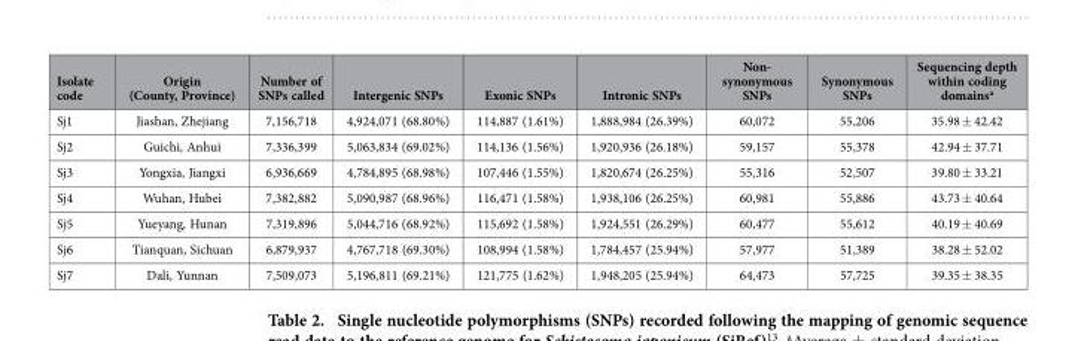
<table><thead><tr><td>Isolate code</td><td>Origin (County, Province)</td><td>Number of SNPs called</td><td>Intergenic SNPs</td><td>Exonic SNPs</td><td>Intronic SNPs</td><td>Non- synonymous SNPs</td><td>Synonymous SNPs</td><td>Sequencing depth within coding domains<sup>a</sup></td></tr></thead><tbody><tr><td>Sj1</td><td>Jiashan, Zhejiang</td><td>7,156,718</td><td>4,924,071 (68.80%)</td><td>114,887 (1.61%)</td><td>1,888,984 (26.39%)</td><td>60,072</td><td>55,206</td><td>35.98 ± 42.42</td></tr><tr><td>Sj2</td><td>Guichi, Anhui</td><td>7,336,399</td><td>5,063,834 (69.02%)</td><td>114,136 (1.56%)</td><td>1,920,936 (26.18%)</td><td>59,157</td><td>55,378</td><td>42.94 ± 37.71</td></tr><tr><td>Sj3</td><td>Yongxia, Jiangxi</td><td>6,936,669</td><td>4,784,895 (68.98%)</td><td>107,446 (1.55%)</td><td>1,820,674 (26.25%)</td><td>55,316</td><td>52,507</td><td>39.80 ± 33.21</td></tr><tr><td>Sj4</td><td>Wuhan, Hubei</td><td>7,382,882</td><td>5,090,987 (68.96%)</td><td>116,471 (1.58%)</td><td>1,938,106 (26.25%)</td><td>60,981</td><td>55,886</td><td>43.73 ± 40.64</td></tr><tr><td>Sj5</td><td>Yueyang, Hunan</td><td>7,319,896</td><td>5,044,716 (68.92%)</td><td>115,692 (1.58%)</td><td>1,924,551 (26.29%)</td><td>60,477</td><td>55,612</td><td>40.19 ± 40.69</td></tr><tr><td>Sj6</td><td>Tianquan, Sichuan</td><td>6,879,937</td><td>4,767,718 (69.30%)</td><td>108,994 (1.58%)</td><td>1,784,457 (25.94%)</td><td>57,977</td><td>51,389</td><td>38.28 ± 52.02</td></tr><tr><td>Sj7</td><td>Dali, Yunnan</td><td>7,509,073</td><td>5,196,811 (69.21%)</td><td>121,775 (1.62%)</td><td>1,948,205 (25.94%)</td><td>64,473</td><td>57,725</td><td>39.35 ± 38.35</td></tr></tbody></table>